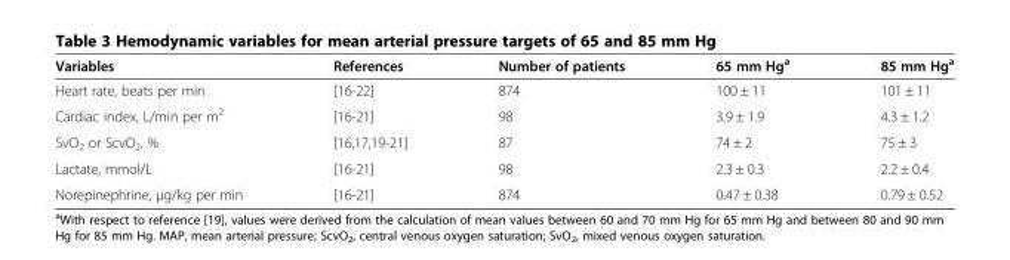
<table><thead><tr><td>Variables</td><td>References</td><td>Number of patients</td><td>65 mm Hg<sup>a</sup></td><td>85 mm Hg<sup>a</sup></td></tr></thead><tbody><tr><td>Heart rate, beats per min</td><td>[16-22]</td><td>874</td><td>100 ± 11</td><td>101 ± 11</td></tr><tr><td>Cardiac index, L/min per m<sup>2</sup></td><td>[16-21]</td><td>98</td><td>3.9 ± 1.9</td><td>4.3 ± 1.2</td></tr><tr><td>SvO<sub>2</sub> or ScvO<sub>2</sub>, %</td><td>[16,17,19-21]</td><td>87</td><td>74 ± 2</td><td>75 ± 3</td></tr><tr><td>Lactate, mmol/L</td><td>[16-21]</td><td>98</td><td>2.3 ± 0.3</td><td>2.2 ± 0.4</td></tr><tr><td>Norepinephrine, μg/kg per min</td><td>[16-21]</td><td>874</td><td>0.47 ± 0.38</td><td>0.79 ± 0.52</td></tr></tbody></table>